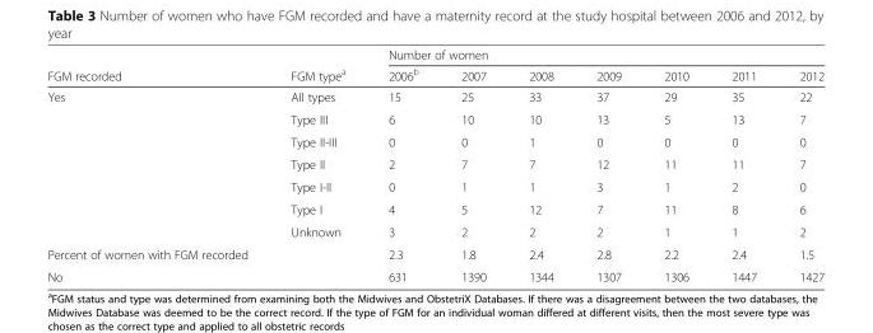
<table><thead><tr><td rowspan="2">FGM recorded</td><td rowspan="2">FGM type<sup>a</sup></td><td colspan="7">Number of women</td></tr><tr><td>2006<sup>b</sup></td><td>2007</td><td>2008</td><td>2009</td><td>2010</td><td>2011</td><td>2012</td></tr></thead><tbody><tr><td rowspan="7">Yes</td><td>All types</td><td>15</td><td>25</td><td>33</td><td>37</td><td>29</td><td>35</td><td>22</td></tr><tr><td>Type III</td><td>6</td><td>10</td><td>10</td><td>13</td><td>5</td><td>13</td><td>7</td></tr><tr><td>Type II-III</td><td>0</td><td>0</td><td>1</td><td>0</td><td>0</td><td>0</td><td>0</td></tr><tr><td>Type II</td><td>2</td><td>7</td><td>7</td><td>12</td><td>11</td><td>11</td><td>7</td></tr><tr><td>Type I-II</td><td>0</td><td>1</td><td>1</td><td>3</td><td>1</td><td>2</td><td>0</td></tr><tr><td>Type I</td><td>4</td><td>5</td><td>12</td><td>7</td><td>11</td><td>8</td><td>6</td></tr><tr><td>Unknown</td><td>3</td><td>2</td><td>2</td><td>2</td><td>1</td><td>1</td><td>2</td></tr><tr><td>Percent of women with FGM recorded</td><td></td><td>2.3</td><td>1.8</td><td>2.4</td><td>2.8</td><td>2.2</td><td>2.4</td><td>1.5</td></tr><tr><td>No</td><td></td><td>631</td><td>1390</td><td>1344</td><td>1307</td><td>1306</td><td>1447</td><td>1427</td></tr></tbody></table>